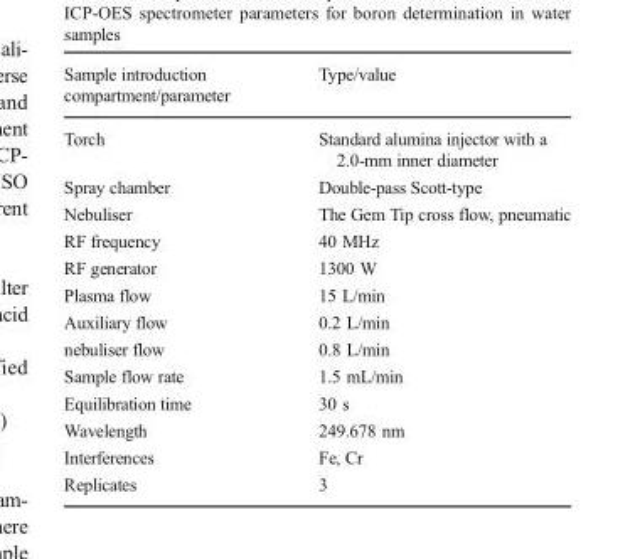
<table><thead><tr><td>Sample introduction compartment/parameter</td><td>Type/value</td></tr></thead><tbody><tr><td>Torch</td><td>Standard alumina injector with a 2.0-mm inner diameter</td></tr><tr><td>Spray chamber</td><td>Double-pass Scott-type</td></tr><tr><td>Nebuliser</td><td>The Gem Tip cross flow, pneumatic</td></tr><tr><td>RF frequency</td><td>40 MHz</td></tr><tr><td>RF generator</td><td>1300 W</td></tr><tr><td>Plasma flow</td><td>15 L/min</td></tr><tr><td>Auxiliary flow</td><td>0.2 L/min</td></tr><tr><td>nebuliser flow</td><td>0.8 L/min</td></tr><tr><td>Sample flow rate</td><td>1.5 mL/min</td></tr><tr><td>Equilibration time</td><td>30 s</td></tr><tr><td>Wavelength</td><td>249.678 nm</td></tr><tr><td>Interferences</td><td>Fe, Cr</td></tr><tr><td>Replicates</td><td>3</td></tr></tbody></table>